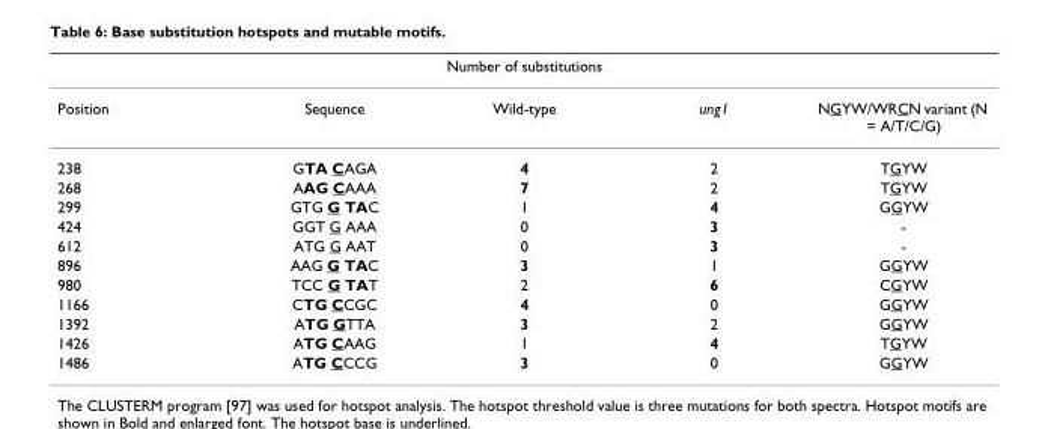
<table><thead><tr><td colspan="5">Number of substitutions</td></tr><tr><td>Position</td><td>Sequence</td><td>Wild-type</td><td>ung1</td><td>NGYW/WRCN variant (N = A/T/C/G)</td></tr></thead><tbody><tr><td>238</td><td>GTA CAGA</td><td>4</td><td>2</td><td>TGYW</td></tr><tr><td>268</td><td>AAG CAAA</td><td>7</td><td>2</td><td>TGYW</td></tr><tr><td>299</td><td>GTG G TAC</td><td>1</td><td>4</td><td>GGYW</td></tr><tr><td>424</td><td>GGT G AAA</td><td>0</td><td>3</td><td>-</td></tr><tr><td>612</td><td>ATG G AAT</td><td>0</td><td>3</td><td>-</td></tr><tr><td>896</td><td>AAG G TAC</td><td>3</td><td>1</td><td>GGYW</td></tr><tr><td>980</td><td>TCC G TAT</td><td>2</td><td>6</td><td>CGYW</td></tr><tr><td>1166</td><td>CTG CCGC</td><td>4</td><td>0</td><td>GGYW</td></tr><tr><td>1392</td><td>ATG GTTA</td><td>3</td><td>2</td><td>GGYW</td></tr><tr><td>1426</td><td>ATG CAAG</td><td>1</td><td>4</td><td>TGYW</td></tr><tr><td>1486</td><td>ATG CCCG</td><td>3</td><td>0</td><td>GGYW</td></tr></tbody></table>